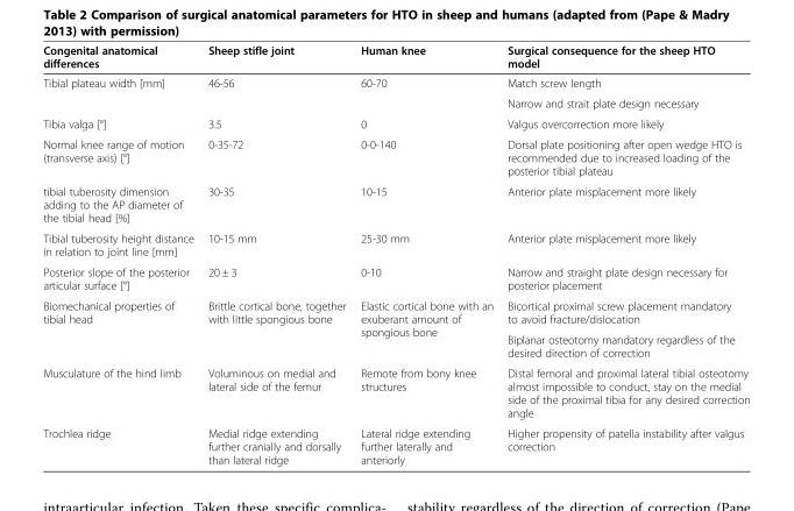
<table><thead><tr><td>Congenital anatomical differences</td><td>Sheep stifle joint</td><td>Human knee</td><td>Surgical consequence for the sheep HTO model</td></tr></thead><tbody><tr><td rowspan="2">Tibial plateau width [mm]</td><td>46-56</td><td>60-70</td><td>Match screw length</td></tr><tr><td></td><td></td><td>Narrow and strait plate design necessary</td></tr><tr><td>Tibia valga [°]</td><td>3.5</td><td>0</td><td>Valgus overcorrection more likely</td></tr><tr><td>Normal knee range of motion (transverse axis) [°]</td><td>0-35-72</td><td>0-0-140</td><td>Dorsal plate positioning after open wedge HTO is recommended due to increased loading of the posterior tibial plateau</td></tr><tr><td>tibial tuberosity dimension adding to the AP diameter of the tibial head [%]</td><td>30-35</td><td>10-15</td><td>Anterior plate misplacement more likely</td></tr><tr><td>Tibial tuberosity height distance in relation to joint line [mm]</td><td>10-15 mm</td><td>25-30 mm</td><td>Anterior plate misplacement more likely</td></tr><tr><td>Posterior slope of the posterior articular surface [°]</td><td>20 ± 3</td><td>0-10</td><td>Narrow and straight plate design necessary for posterior placement</td></tr><tr><td rowspan="2">Biomechanical properties of tibial head</td><td rowspan="2">Brittle cortical bone, together with little spongious bone</td><td rowspan="2">Elastic cortical bone with an exuberant amount of spongious bone</td><td>Bicortical proximal screw placement mandatory to avoid fracture/dislocation</td></tr><tr><td>Biplanar osteotomy mandatory regardless of the desired direction of correction</td></tr><tr><td>Musculature of the hind limb</td><td>Voluminous on medial and lateral side of the femur</td><td>Remote from bony knee structures</td><td>Distal femoral and proximal lateral tibial osteotomy almost impossible to conduct, stay on the medial side of the proximal tibia for any desired correction angle</td></tr><tr><td>Trochlea ridge</td><td>Medial ridge extending further cranially and dorsally than lateral ridge</td><td>Lateral ridge extending further laterally and anteriorly</td><td>Higher propensity of patella instability after valgus correction</td></tr></tbody></table>